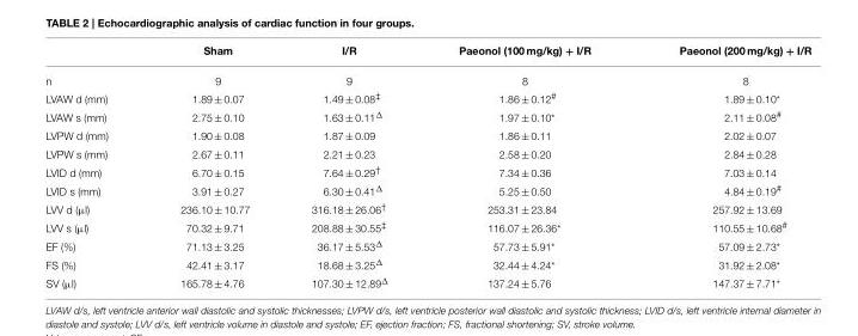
<table><thead><tr><td></td><td>Sham</td><td>I/R</td><td>Paeonol (100 mg/kg) + I/R</td><td>Paeonol (200 mg/kg) + I/R</td></tr></thead><tbody><tr><td>n</td><td>9</td><td>9</td><td>8</td><td>8</td></tr><tr><td>LVAW d (mm)</td><td>1.89 ± 0.07</td><td>1.49 ± 0.08<sup>‡</sup></td><td>1.86 ± 0.12<sup>#</sup></td><td>1.89 ± 0.10*</td></tr><tr><td>LVAW s (mm)</td><td>2.75 ± 0.10</td><td>1.63 ± 0.11<sup>Δ</sup></td><td>1.97 ± 0.10*</td><td>2.11 ± 0.08<sup>#</sup></td></tr><tr><td>LVPW d (mm)</td><td>1.90 ± 0.08</td><td>1.87 ± 0.09</td><td>1.86 ± 0.11</td><td>2.02 ± 0.07</td></tr><tr><td>LVPW s (mm)</td><td>2.67 ± 0.11</td><td>2.21 ± 0.23</td><td>2.58 ± 0.20</td><td>2.84 ± 0.28</td></tr><tr><td>LVID d (mm)</td><td>6.70 ± 0.15</td><td>7.64 ± 0.29<sup>†</sup></td><td>7.34 ± 0.36</td><td>7.03 ± 0.14</td></tr><tr><td>LVID s (mm)</td><td>3.91 ± 0.27</td><td>6.30 ± 0.41<sup>Δ</sup></td><td>5.25 ± 0.50</td><td>4.84 ± 0.19<sup>#</sup></td></tr><tr><td>LVV d (µl)</td><td>236.10 ± 10.77</td><td>316.18 ± 26.06<sup>†</sup></td><td>253.31 ± 23.84</td><td>257.92 ± 13.69</td></tr><tr><td>LVV s (µl)</td><td>70.32 ± 9.71</td><td>208.88 ± 30.55<sup>‡</sup></td><td>116.07 ± 26.36*</td><td>110.55 ± 10.68<sup>#</sup></td></tr><tr><td>EF (%)</td><td>71.13 ± 3.25</td><td>36.17 ± 5.53<sup>Δ</sup></td><td>57.73 ± 5.91*</td><td>57.09 ± 2.73*</td></tr><tr><td>FS (%)</td><td>42.41 ± 3.17</td><td>18.68 ± 3.25<sup>Δ</sup></td><td>32.44 ± 4.24*</td><td>31.92 ± 2.08*</td></tr><tr><td>SV (µl)</td><td>165.78 ± 4.76</td><td>107.30 ± 12.89<sup>Δ</sup></td><td>137.24 ± 5.76</td><td>147.37 ± 7.71*</td></tr></tbody></table>